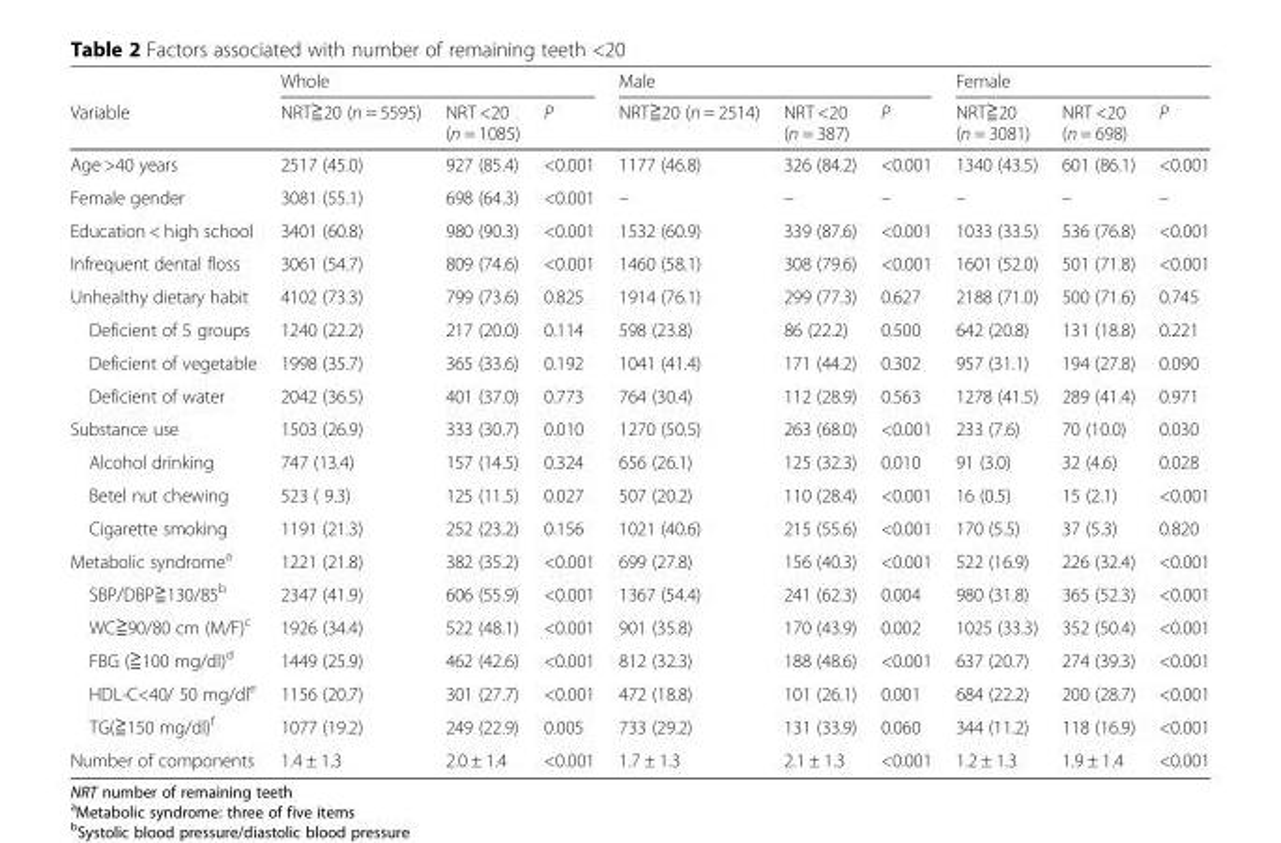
<table><thead><tr><td rowspan="2">Variable</td><td colspan="3">Whole</td><td colspan="3">Male</td><td colspan="3">Female</td></tr><tr><td>NRT≧20 (n = 5595)</td><td>NRT &lt;20 (n = 1085)</td><td>P</td><td>NRT≧20 (n = 2514)</td><td>NRT &lt;20 (n = 387)</td><td>P</td><td>NRT≧20 (n = 3081)</td><td>NRT &lt;20 (n = 698)</td><td>P</td></tr></thead><tbody><tr><td>Age &gt;40 years</td><td>2517 (45.0)</td><td>927 (85.4)</td><td>&lt;0.001</td><td>1177 (46.8)</td><td>326 (84.2)</td><td>&lt;0.001</td><td>1340 (43.5)</td><td>601 (86.1)</td><td>&lt;0.001</td></tr><tr><td>Female gender</td><td>3081 (55.1)</td><td>698 (64.3)</td><td>&lt;0.001</td><td>–</td><td>–</td><td>–</td><td>–</td><td>–</td><td>–</td></tr><tr><td>Education &lt; high school</td><td>3401 (60.8)</td><td>980 (90.3)</td><td>&lt;0.001</td><td>1532 (60.9)</td><td>339 (87.6)</td><td>&lt;0.001</td><td>1033 (33.5)</td><td>536 (76.8)</td><td>&lt;0.001</td></tr><tr><td>Infrequent dental floss</td><td>3061 (54.7)</td><td>809 (74.6)</td><td>&lt;0.001</td><td>1460 (58.1)</td><td>308 (79.6)</td><td>&lt;0.001</td><td>1601 (52.0)</td><td>501 (71.8)</td><td>&lt;0.001</td></tr><tr><td>Unhealthy dietary habit</td><td>4102 (73.3)</td><td>799 (73.6)</td><td>0.825</td><td>1914 (76.1)</td><td>299 (77.3)</td><td>0.627</td><td>2188 (71.0)</td><td>500 (71.6)</td><td>0.745</td></tr><tr><td>Deficient of 5 groups</td><td>1240 (22.2)</td><td>217 (20.0)</td><td>0.114</td><td>598 (23.8)</td><td>86 (22.2)</td><td>0.500</td><td>642 (20.8)</td><td>131 (18.8)</td><td>0.221</td></tr><tr><td>Deficient of vegetable</td><td>1998 (35.7)</td><td>365 (33.6)</td><td>0.192</td><td>1041 (41.4)</td><td>171 (44.2)</td><td>0.302</td><td>957 (31.1)</td><td>194 (27.8)</td><td>0.090</td></tr><tr><td>Deficient of water</td><td>2042 (36.5)</td><td>401 (37.0)</td><td>0.773</td><td>764 (30.4)</td><td>112 (28.9)</td><td>0.563</td><td>1278 (41.5)</td><td>289 (41.4)</td><td>0.971</td></tr><tr><td>Substance use</td><td>1503 (26.9)</td><td>333 (30.7)</td><td>0.010</td><td>1270 (50.5)</td><td>263 (68.0)</td><td>&lt;0.001</td><td>233 (7.6)</td><td>70 (10.0)</td><td>0.030</td></tr><tr><td>Alcohol drinking</td><td>747 (13.4)</td><td>157 (14.5)</td><td>0.324</td><td>656 (26.1)</td><td>125 (32.3)</td><td>0.010</td><td>91 (3.0)</td><td>32 (4.6)</td><td>0.028</td></tr><tr><td>Betel nut chewing</td><td>523 ( 9.3)</td><td>125 (11.5)</td><td>0.027</td><td>507 (20.2)</td><td>110 (28.4)</td><td>&lt;0.001</td><td>16 (0.5)</td><td>15 (2.1)</td><td>&lt;0.001</td></tr><tr><td>Cigarette smoking</td><td>1191 (21.3)</td><td>252 (23.2)</td><td>0.156</td><td>1021 (40.6)</td><td>215 (55.6)</td><td>&lt;0.001</td><td>170 (5.5)</td><td>37 (5.3)</td><td>0.820</td></tr><tr><td>Metabolic syndrome<sup>a</sup></td><td>1221 (21.8)</td><td>382 (35.2)</td><td>&lt;0.001</td><td>699 (27.8)</td><td>156 (40.3)</td><td>&lt;0.001</td><td>522 (16.9)</td><td>226 (32.4)</td><td>&lt;0.001</td></tr><tr><td>SBP/DBP≧130/85<sup>b</sup></td><td>2347 (41.9)</td><td>606 (55.9)</td><td>&lt;0.001</td><td>1367 (54.4)</td><td>241 (62.3)</td><td>0.004</td><td>980 (31.8)</td><td>365 (52.3)</td><td>&lt;0.001</td></tr><tr><td>WC≧90/80 cm (M/F)<sup>c</sup></td><td>1926 (34.4)</td><td>522 (48.1)</td><td>&lt;0.001</td><td>901 (35.8)</td><td>170 (43.9)</td><td>0.002</td><td>1025 (33.3)</td><td>352 (50.4)</td><td>&lt;0.001</td></tr><tr><td>FBG (≧100 mg/dl)<sup>d</sup></td><td>1449 (25.9)</td><td>462 (42.6)</td><td>&lt;0.001</td><td>812 (32.3)</td><td>188 (48.6)</td><td>&lt;0.001</td><td>637 (20.7)</td><td>274 (39.3)</td><td>&lt;0.001</td></tr><tr><td>HDL-C&lt;40/ 50 mg/dl<sup>e</sup></td><td>1156 (20.7)</td><td>301 (27.7)</td><td>&lt;0.001</td><td>472 (18.8)</td><td>101 (26.1)</td><td>0.001</td><td>684 (22.2)</td><td>200 (28.7)</td><td>&lt;0.001</td></tr><tr><td>TG(≧150 mg/dl)<sup>f</sup></td><td>1077 (19.2)</td><td>249 (22.9)</td><td>0.005</td><td>733 (29.2)</td><td>131 (33.9)</td><td>0.060</td><td>344 (11.2)</td><td>118 (16.9)</td><td>&lt;0.001</td></tr><tr><td>Number of components</td><td>1.4 ± 1.3</td><td>2.0 ± 1.4</td><td>&lt;0.001</td><td>1.7 ± 1.3</td><td>2.1 ± 1.3</td><td>&lt;0.001</td><td>1.2 ± 1.3</td><td>1.9 ± 1.4</td><td>&lt;0.001</td></tr></tbody></table>